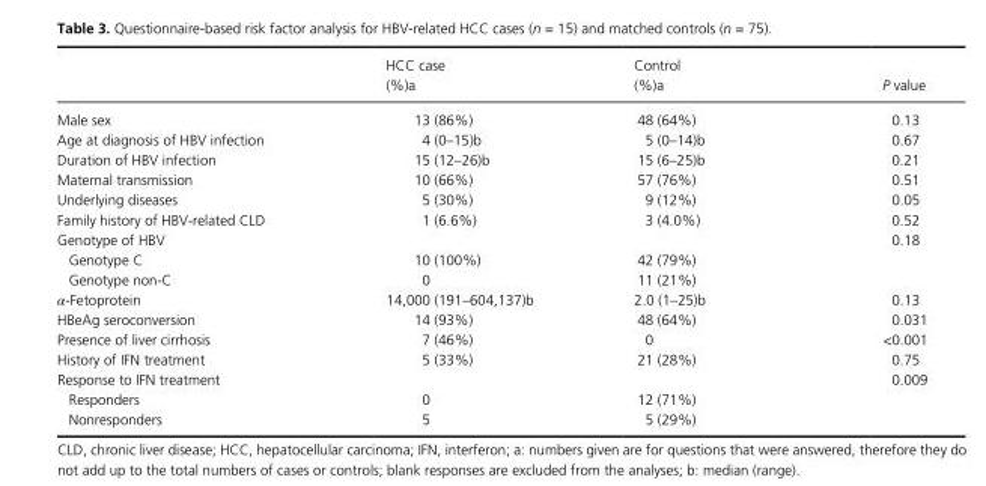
<table><thead><tr><td></td><td>HCC case (%)a</td><td>Control (%)a</td><td>P value</td></tr></thead><tbody><tr><td>Male sex</td><td>13 (86%)</td><td>48 (64%)</td><td>0.13</td></tr><tr><td>Age at diagnosis of HBV infection</td><td>4 (0–15)b</td><td>5 (0–14)b</td><td>0.67</td></tr><tr><td>Duration of HBV infection</td><td>15 (12–26)b</td><td>15 (6–25)b</td><td>0.21</td></tr><tr><td>Maternal transmission</td><td>10 (66%)</td><td>57 (76%)</td><td>0.51</td></tr><tr><td>Underlying diseases</td><td>5 (30%)</td><td>9 (12%)</td><td>0.05</td></tr><tr><td>Family history of HBV- related CLD</td><td>1 (6.6%)</td><td>3 (4.0%)</td><td>0.52</td></tr><tr><td>Genotype of HBV</td><td></td><td></td><td>0.18</td></tr><tr><td>Genotype C</td><td>10 (100%)</td><td>42 (79%)</td><td></td></tr><tr><td>Genotype non- C</td><td>0</td><td>11 (21%)</td><td></td></tr><tr><td>α- Fetoprotein</td><td>14,000 (191–604,137)b</td><td>2.0 (1–25)b</td><td>0.13</td></tr><tr><td>HBeAg seroconversion</td><td>14 (93%)</td><td>48 (64%)</td><td>0.031</td></tr><tr><td>Presence of liver cirrhosis</td><td>7 (46%)</td><td>0</td><td>&lt;0.001</td></tr><tr><td>History of IFN treatment</td><td>5 (33%)</td><td>21 (28%)</td><td>0.75</td></tr><tr><td>Response to IFN treatment</td><td></td><td></td><td>0.009</td></tr><tr><td>Responders</td><td>0</td><td>12 (71%)</td><td></td></tr><tr><td>Nonresponders</td><td>5</td><td>5 (29%)</td><td></td></tr></tbody></table>